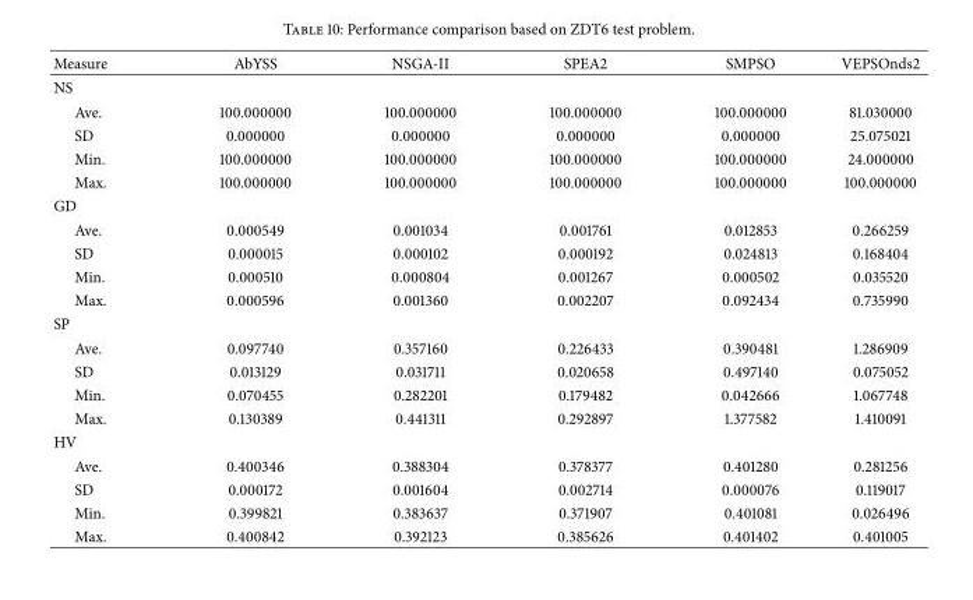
<table><thead><tr><td>Measure</td><td>AbYSS</td><td>NSGA-II</td><td>SPEA2</td><td>SMPSO</td><td>VEPSOnds2</td></tr></thead><tbody><tr><td colspan="6">NS</td></tr><tr><td>Ave.</td><td>100.000000</td><td>100.000000</td><td>100.000000</td><td>100.000000</td><td>81.030000</td></tr><tr><td>SD</td><td>0.000000</td><td>0.000000</td><td>0.000000</td><td>0.000000</td><td>25.075021</td></tr><tr><td>Min.</td><td>100.000000</td><td>100.000000</td><td>100.000000</td><td>100.000000</td><td>24.000000</td></tr><tr><td>Max.</td><td>100.000000</td><td>100.000000</td><td>100.000000</td><td>100.000000</td><td>100.000000</td></tr><tr><td colspan="6">GD</td></tr><tr><td>Ave.</td><td>0.000549</td><td>0.001034</td><td>0.001761</td><td>0.012853</td><td>0.266259</td></tr><tr><td>SD</td><td>0.000015</td><td>0.000102</td><td>0.000192</td><td>0.024813</td><td>0.168404</td></tr><tr><td>Min.</td><td>0.000510</td><td>0.000804</td><td>0.001267</td><td>0.000502</td><td>0.035520</td></tr><tr><td>Max.</td><td>0.000596</td><td>0.001360</td><td>0.002207</td><td>0.092434</td><td>0.735990</td></tr><tr><td colspan="6">SP</td></tr><tr><td>Ave.</td><td>0.097740</td><td>0.357160</td><td>0.226433</td><td>0.390481</td><td>1.286909</td></tr><tr><td>SD</td><td>0.013129</td><td>0.031711</td><td>0.020658</td><td>0.497140</td><td>0.075052</td></tr><tr><td>Min.</td><td>0.070455</td><td>0.282201</td><td>0.179482</td><td>0.042666</td><td>1.067748</td></tr><tr><td>Max.</td><td>0.130389</td><td>0.441311</td><td>0.292897</td><td>1.377582</td><td>1.410091</td></tr><tr><td colspan="6">HV</td></tr><tr><td>Ave.</td><td>0.400346</td><td>0.388304</td><td>0.378377</td><td>0.401280</td><td>0.281256</td></tr><tr><td>SD</td><td>0.000172</td><td>0.001604</td><td>0.002714</td><td>0.000076</td><td>0.119017</td></tr><tr><td>Min.</td><td>0.399821</td><td>0.383637</td><td>0.371907</td><td>0.401081</td><td>0.026496</td></tr><tr><td>Max.</td><td>0.400842</td><td>0.392123</td><td>0.385626</td><td>0.401402</td><td>0.401005</td></tr></tbody></table>